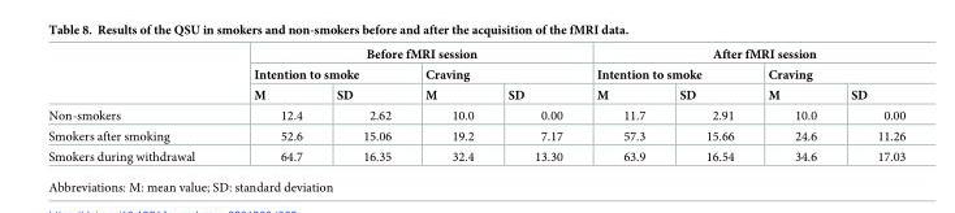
<table><thead><tr><td rowspan="3"></td><td colspan="4">Before fMRI session</td><td colspan="4">After fMRI session</td></tr><tr><td colspan="2">Intention to smoke</td><td colspan="2">Craving</td><td colspan="2">Intention to smoke</td><td colspan="2">Craving</td></tr><tr><td>M</td><td>SD</td><td>M</td><td>SD</td><td>M</td><td>SD</td><td>M</td><td>SD</td></tr></thead><tbody><tr><td>Non-smokers</td><td>12.4</td><td>2.62</td><td>10.0</td><td>0.00</td><td>11.7</td><td>2.91</td><td>10.0</td><td>0.00</td></tr><tr><td>Smokers after smoking</td><td>52.6</td><td>15.06</td><td>19.2</td><td>7.17</td><td>57.3</td><td>15.66</td><td>24.6</td><td>11.26</td></tr><tr><td>Smokers during withdrawal</td><td>64.7</td><td>16.35</td><td>32.4</td><td>13.30</td><td>63.9</td><td>16.54</td><td>34.6</td><td>17.03</td></tr></tbody></table>